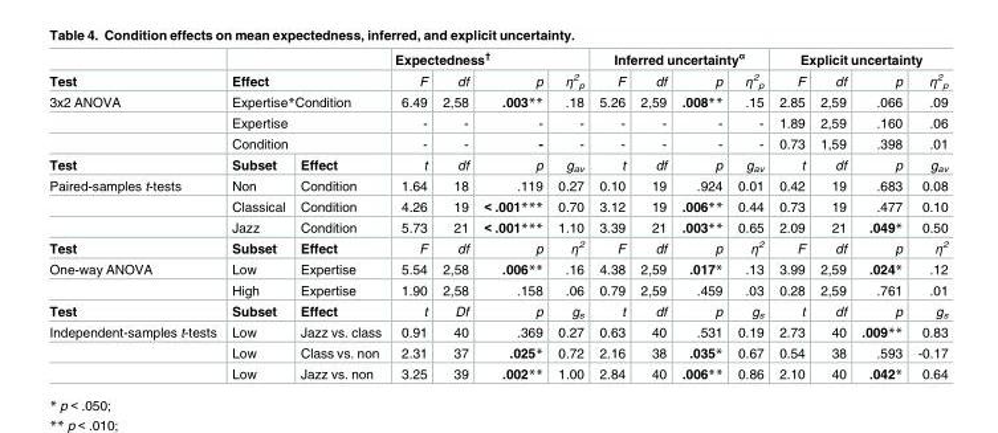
<table><thead><tr><td rowspan="2">Test</td><td></td><td></td><td colspan="4">Expectedness<sup>†</sup></td><td colspan="4">Inferred uncertainty<sup>α</sup></td><td colspan="4">Explicit uncertainty</td></tr><tr><td colspan="2">Effect</td><td>F</td><td>df</td><td>p</td><td>η<sup>2</sup> <sub>p</sub></td><td>F</td><td>df</td><td>p</td><td>η<sup>2</sup> <sub>p</sub></td><td>F</td><td>df</td><td>p</td><td>η<sup>2</sup> <sub>p</sub></td></tr></thead><tbody><tr><td rowspan="3">3x2 ANOVA</td><td colspan="2">Expertise*Condition</td><td>6.49</td><td>2,58</td><td>.003**</td><td>.18</td><td>5.26</td><td>2,59</td><td>.008**</td><td>.15</td><td>2.85</td><td>2,59</td><td>.066</td><td>.09</td></tr><tr><td colspan="2">Expertise</td><td>-</td><td>-</td><td>-</td><td>-</td><td>-</td><td>-</td><td>-</td><td>-</td><td>1.89</td><td>2,59</td><td>.160</td><td>.06</td></tr><tr><td colspan="2">Condition</td><td>-</td><td>-</td><td>-</td><td>-</td><td>-</td><td>-</td><td>-</td><td>-</td><td>0.73</td><td>1,59</td><td>.398</td><td>.01</td></tr><tr><td>Test</td><td>Subset</td><td>Effect</td><td>t</td><td>df</td><td>p</td><td>g<sub>av</sub></td><td>t</td><td>df</td><td>p</td><td>g<sub>av</sub></td><td>t</td><td>df</td><td>p</td><td>g<sub>av</sub></td></tr><tr><td rowspan="3">Paired-samples t-tests</td><td>Non</td><td>Condition</td><td>1.64</td><td>18</td><td>.119</td><td>0.27</td><td>0.10</td><td>19</td><td>.924</td><td>0.01</td><td>0.42</td><td>19</td><td>.683</td><td>0.08</td></tr><tr><td>Classical</td><td>Condition</td><td>4.26</td><td>19</td><td>&lt; .001***</td><td>0.70</td><td>3.12</td><td>19</td><td>.006**</td><td>0.44</td><td>0.73</td><td>19</td><td>.477</td><td>0.10</td></tr><tr><td>Jazz</td><td>Condition</td><td>5.73</td><td>21</td><td>&lt; .001***</td><td>1.10</td><td>3.39</td><td>21</td><td>.003**</td><td>0.65</td><td>2.09</td><td>21</td><td>.049*</td><td>0.50</td></tr><tr><td>Test</td><td>Subset</td><td>Effect</td><td>F</td><td>df</td><td>p</td><td>η<sup>2</sup></td><td>F</td><td>df</td><td>p</td><td>η<sup>2</sup></td><td>F</td><td>df</td><td>p</td><td>η<sup>2</sup></td></tr><tr><td rowspan="2">One-way ANOVA</td><td>Low</td><td>Expertise</td><td>5.54</td><td>2,58</td><td>.006**</td><td>.16</td><td>4.38</td><td>2,59</td><td>.017*</td><td>.13</td><td>3.99</td><td>2,59</td><td>.024*</td><td>.12</td></tr><tr><td>High</td><td>Expertise</td><td>1.90</td><td>2,58</td><td>.158</td><td>.06</td><td>0.79</td><td>2,59</td><td>.459</td><td>.03</td><td>0.28</td><td>2,59</td><td>.761</td><td>.01</td></tr><tr><td>Test</td><td>Subset</td><td>Effect</td><td>t</td><td>Df</td><td>p</td><td>g<sub>s</sub></td><td>t</td><td>df</td><td>p</td><td>g<sub>s</sub></td><td>t</td><td>df</td><td>p</td><td>g<sub>s</sub></td></tr><tr><td rowspan="3">Independent-samples t-tests</td><td>Low</td><td>Jazz vs. class</td><td>0.91</td><td>40</td><td>.369</td><td>0.27</td><td>0.63</td><td>40</td><td>.531</td><td>0.19</td><td>2.73</td><td>40</td><td>.009**</td><td>0.83</td></tr><tr><td>Low</td><td>Class vs. non</td><td>2.31</td><td>37</td><td>.025*</td><td>0.72</td><td>2.16</td><td>38</td><td>.035*</td><td>0.67</td><td>0.54</td><td>38</td><td>.593</td><td>-0.17</td></tr><tr><td>Low</td><td>Jazz vs. non</td><td>3.25</td><td>39</td><td>.002**</td><td>1.00</td><td>2.84</td><td>40</td><td>.006**</td><td>0.86</td><td>2.10</td><td>40</td><td>.042*</td><td>0.64</td></tr></tbody></table>